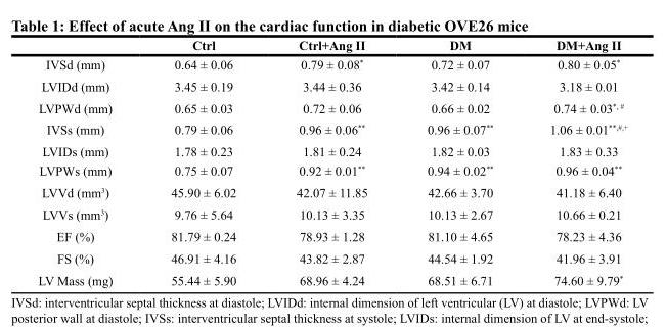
<table><thead><tr><td></td><td>Ctrl</td><td>Ctrl+Ang II</td><td>DM</td><td>DM+Ang II</td></tr></thead><tbody><tr><td>IVSd (mm)</td><td>0.64 ± 0.06</td><td>0.79 ± 0.08*</td><td>0.72 ± 0.07</td><td>0.80 ± 0.05*</td></tr><tr><td>LVIDd (mm)</td><td>3.45 ± 0.19</td><td>3.44 ± 0.36</td><td>3.42 ± 0.14</td><td>3.18 ± 0.01</td></tr><tr><td>LVPWd (mm)</td><td>0.65 ± 0.03</td><td>0.72 ± 0.06</td><td>0.66 ± 0.02</td><td>0.74 ± 0.03<sup>*, #</sup></td></tr><tr><td>IVSs (mm)</td><td>0.79 ± 0.06</td><td>0.96 ± 0.06**</td><td>0.96 ± 0.07**</td><td>1.06 ± 0.01<sup>**,#,+</sup></td></tr><tr><td>LVIDs (mm)</td><td>1.78 ± 0.23</td><td>1.81 ± 0.24</td><td>1.82 ± 0.03</td><td>1.83 ± 0.33</td></tr><tr><td>LVPWs (mm)</td><td>0.75 ± 0.07</td><td>0.92 ± 0.01**</td><td>0.94 ± 0.02**</td><td>0.96 ± 0.04**</td></tr><tr><td>LVVd (mm<sup>3</sup>)</td><td>45.90 ± 6.02</td><td>42.07 ± 11.85</td><td>42.66 ± 3.70</td><td>41.18 ± 6.40</td></tr><tr><td>LVVs (mm<sup>3</sup>)</td><td>9.76 ± 5.64</td><td>10.13 ± 3.35</td><td>10.13 ± 2.67</td><td>10.66 ± 0.21</td></tr><tr><td>EF (%)</td><td>81.79 ± 0.24</td><td>78.93 ± 1.28</td><td>81.10 ± 4.65</td><td>78.23 ± 4.36</td></tr><tr><td>FS (%)</td><td>46.91 ± 4.16</td><td>43.82 ± 2.87</td><td>44.54 ± 1.92</td><td>41.96 ± 3.91</td></tr><tr><td>LV Mass (mg)</td><td>55.44 ± 5.90</td><td>68.96 ± 4.24</td><td>68.51 ± 6.71</td><td>74.60 ± 9.79*</td></tr></tbody></table>